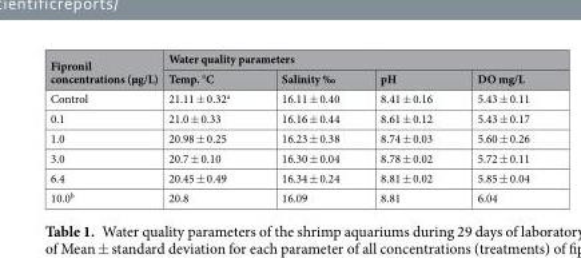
<table><thead><tr><td rowspan="2">Fipronil concentrations (µg/L)</td><td colspan="4">Water quality parameters</td></tr><tr><td>Temp. °C</td><td>Salinity ‰</td><td>pH</td><td>DO mg/L</td></tr></thead><tbody><tr><td>Control</td><td>21.11 ± 0.32<sup>a</sup></td><td>16.11 ± 0.40</td><td>8.41 ± 0.16</td><td>5.43 ± 0.11</td></tr><tr><td>0.1</td><td>21.0 ± 0.33</td><td>16.16 ± 0.44</td><td>8.61 ± 0.12</td><td>5.43 ± 0.17</td></tr><tr><td>1.0</td><td>20.98 ± 0.25</td><td>16.23 ± 0.38</td><td>8.74 ± 0.03</td><td>5.60 ± 0.26</td></tr><tr><td>3.0</td><td>20.7 ± 0.10</td><td>16.30 ± 0.04</td><td>8.78 ± 0.02</td><td>5.72 ± 0.11</td></tr><tr><td>6.4</td><td>20.45 ± 0.49</td><td>16.34 ± 0.24</td><td>8.81 ± 0.02</td><td>5.85 ± 0.04</td></tr><tr><td>10.0<sup>b</sup></td><td>20.8</td><td>16.09</td><td>8.81</td><td>6.04</td></tr></tbody></table>